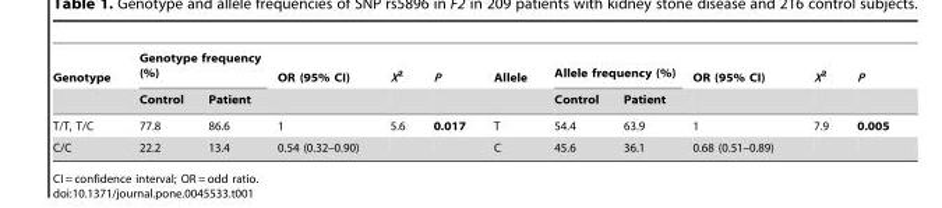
<table><thead><tr><td rowspan="2">Genotype</td><td colspan="2">Genotype frequency (%)</td><td rowspan="2">OR (95% CI)</td><td rowspan="2">X<sup>2</sup></td><td rowspan="2">P</td><td rowspan="2">Allele</td><td colspan="2">Allele frequency (%)</td><td rowspan="2">OR (95% CI)</td><td rowspan="2">X<sup>2</sup></td><td rowspan="2">P</td></tr><tr><td>Control</td><td>Patient</td><td>Control</td><td>Patient</td></tr></thead><tbody><tr><td>T/T, T/C</td><td>77.8</td><td>86.6</td><td>1</td><td>5.6</td><td>0.017</td><td>T</td><td>54.4</td><td>63.9</td><td>1</td><td>7.9</td><td>0.005</td></tr><tr><td>C/C</td><td>22.2</td><td>13.4</td><td>0.54 (0.32–0.90)</td><td></td><td></td><td>C</td><td>45.6</td><td>36.1</td><td>0.68 (0.51–0.89)</td><td></td><td></td></tr></tbody></table>